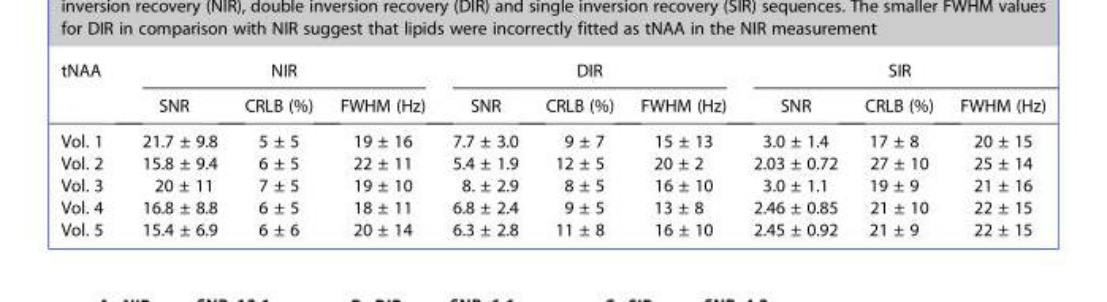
<table><thead><tr><td rowspan="2">tNAA</td><td colspan="3">NIR</td><td colspan="3">DIR</td><td colspan="3">SIR</td></tr><tr><td>SNR</td><td>CRLB (%)</td><td>FWHM (Hz)</td><td>SNR</td><td>CRLB (%)</td><td>FWHM (Hz)</td><td>SNR</td><td>CRLB (%)</td><td>FWHM (Hz)</td></tr></thead><tbody><tr><td>Vol. 1</td><td>21.7 ± 9.8</td><td>5 ± 5</td><td>19 ± 16</td><td>7.7 ± 3.0</td><td>9 ± 7</td><td>15 ± 13</td><td>3.0 ± 1.4</td><td>17 ± 8</td><td>20 ± 15</td></tr><tr><td>Vol. 2</td><td>15.8 ± 9.4</td><td>6 ± 5</td><td>22 ± 11</td><td>5.4 ± 1.9</td><td>12 ± 5</td><td>20 ± 2</td><td>2.03 ± 0.72</td><td>27 ± 10</td><td>25 ± 14</td></tr><tr><td>Vol. 3</td><td>20 ± 11</td><td>7 ± 5</td><td>19 ± 10</td><td>8. ± 2.9</td><td>8 ± 5</td><td>16 ± 10</td><td>3.0 ± 1.1</td><td>19 ± 9</td><td>21 ± 16</td></tr><tr><td>Vol. 4</td><td>16.8 ± 8.8</td><td>6 ± 5</td><td>18 ± 11</td><td>6.8 ± 2.4</td><td>9 ± 5</td><td>13 ± 8</td><td>2.46 ± 0.85</td><td>21 ± 10</td><td>22 ± 15</td></tr><tr><td>Vol. 5</td><td>15.4 ± 6.9</td><td>6 ± 6</td><td>20 ± 14</td><td>6.3 ± 2.8</td><td>11 ± 8</td><td>16 ± 10</td><td>2.45 ± 0.92</td><td>21 ± 9</td><td>22 ± 15</td></tr></tbody></table>